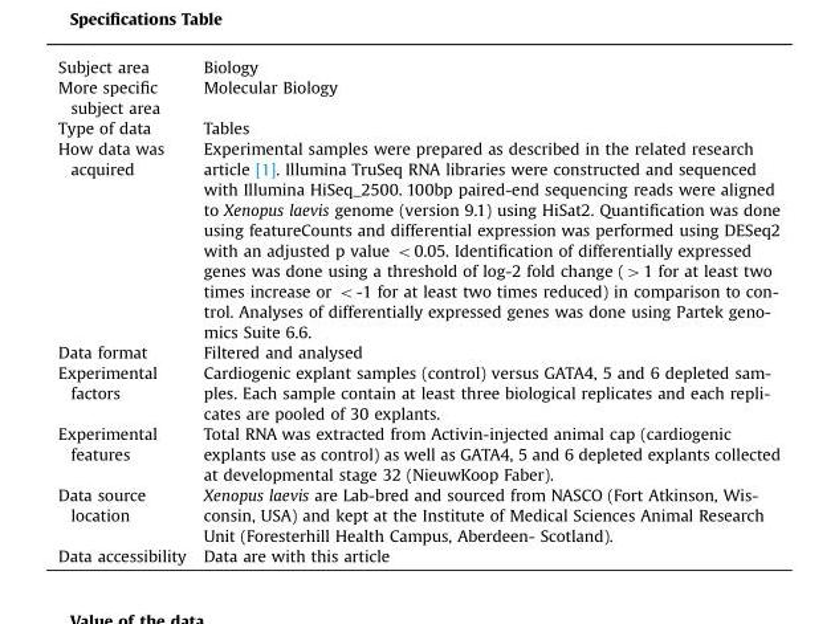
<table><tbody><tr><td>Subject area</td><td>Biology</td></tr><tr><td>More specific subject area</td><td>Molecular Biology</td></tr><tr><td>Type of data</td><td>Tables</td></tr><tr><td>How data was acquired</td><td>Experimental samples were prepared as described in the related research article [1]. Illumina TruSeq RNA libraries were constructed and sequenced with Illumina HiSeq_2500. 100bp paired-end sequencing reads were aligned to Xenopus laevis genome (version 9.1) using HiSat2. Quantification was done using featureCounts and differential expression was performed using DESeq2 with an adjusted p value o0.05. Identification of differentially expressed genes was done using a threshold of log-2 fold change (41 for at least two times increase or o-1 for at least two times reduced) in comparison to con- trol. Analyses of differentially expressed genes was done using Partek geno- mics Suite 6.6.</td></tr><tr><td>Data format</td><td>Filtered and analysed</td></tr><tr><td>Experimental factors</td><td>Cardiogenic explant samples (control) versus GATA4, 5 and 6 depleted sam- ples. Each sample contain at least three biological replicates and each repli- cates are pooled of 30 explants.</td></tr><tr><td>Experimental features</td><td>Total RNA was extracted from Activin-injected animal cap (cardiogenic explants use as control) as well as GATA4, 5 and 6 depleted explants collected at developmental stage 32 (NieuwKoop Faber).</td></tr><tr><td>Data source location</td><td>Xenopus laevis are Lab-bred and sourced from NASCO (Fort Atkinson, Wis- consin, USA) and kept at the Institute of Medical Sciences Animal Research Unit (Foresterhill Health Campus, Aberdeen- Scotland).</td></tr><tr><td>Data accessibility</td><td>Data are with this article</td></tr></tbody></table>